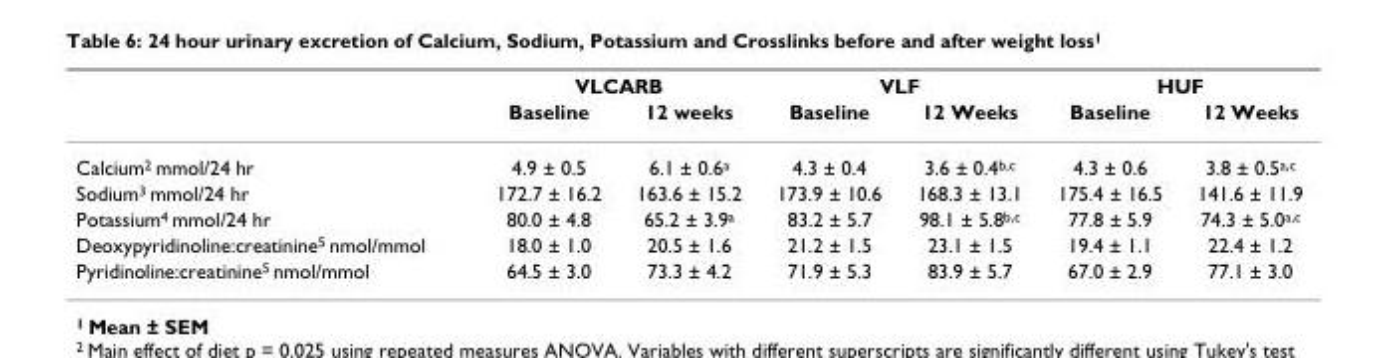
<table><thead><tr><td rowspan="2"></td><td colspan="2">VLCARB</td><td colspan="2">VLF</td><td colspan="2">HUF</td></tr><tr><td>Baseline</td><td>12 weeks</td><td>Baseline</td><td>12 Weeks</td><td>Baseline</td><td>12 Weeks</td></tr></thead><tbody><tr><td>Calcium<sup>2</sup> mmol/24 hr</td><td>4.9 ± 0.5</td><td>6.1 ± 0.6<sup>a</sup></td><td>4.3 ± 0.4</td><td>3.6 ± 0.4<sup>b,c</sup></td><td>4.3 ± 0.6</td><td>3.8 ± 0.5<sup>a,c</sup></td></tr><tr><td>Sodium<sup>3</sup> mmol/24 hr</td><td>172.7 ± 16.2</td><td>163.6 ± 15.2</td><td>173.9 ± 10.6</td><td>168.3 ± 13.1</td><td>175.4 ± 16.5</td><td>141.6 ± 11.9</td></tr><tr><td>Potassium<sup>4</sup> mmol/24 hr</td><td>80.0 ± 4.8</td><td>65.2 ± 3.9<sup>a</sup></td><td>83.2 ± 5.7</td><td>98.1 ± 5.8<sup>b,c</sup></td><td>77.8 ± 5.9</td><td>74.3 ± 5.0<sup>a,c</sup></td></tr><tr><td>Deoxypyridinoline:creatinine<sup>5</sup> nmol/mmol</td><td>18.0 ± 1.0</td><td>20.5 ± 1.6</td><td>21.2 ± 1.5</td><td>23.1 ± 1.5</td><td>19.4 ± 1.1</td><td>22.4 ± 1.2</td></tr><tr><td>Pyridinoline:creatinine<sup>5</sup> nmol/mmol</td><td>64.5 ± 3.0</td><td>73.3 ± 4.2</td><td>71.9 ± 5.3</td><td>83.9 ± 5.7</td><td>67.0 ± 2.9</td><td>77.1 ± 3.0</td></tr></tbody></table>